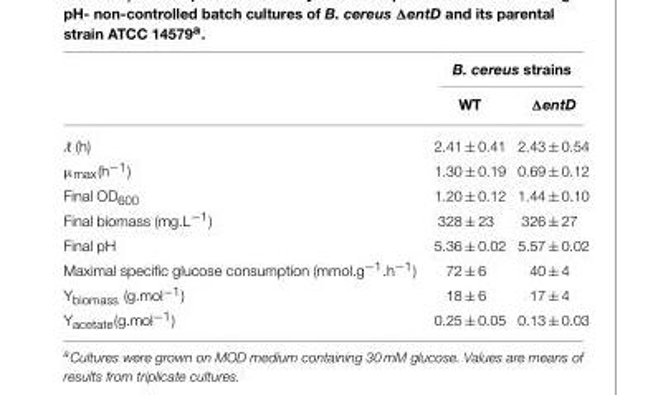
<table><thead><tr><td rowspan="2"></td><td colspan="2">B. cereus strains</td></tr><tr><td>WT</td><td>ΔentD</td></tr></thead><tbody><tr><td>ƛ (h)</td><td>2.41 ± 0.41</td><td>2.43 ± 0.54</td></tr><tr><td>µ<sub>max</sub>(h<sup>−1</sup>)</td><td>1.30 ± 0.19</td><td>0.69 ± 0.12</td></tr><tr><td>Final OD<sub>600</sub></td><td>1.20 ± 0.12</td><td>1.44 ± 0.10</td></tr><tr><td>Final biomass (mg.L<sup>−1</sup>)</td><td>328 ± 23</td><td>326 ± 27</td></tr><tr><td>Final pH</td><td>5.36 ± 0.02</td><td>5.57 ± 0.02</td></tr><tr><td>Maximal specific glucose consumption (mmol.g<sup>−1</sup>.h<sup>−1</sup>)</td><td>72 ± 6</td><td>40 ± 4</td></tr><tr><td>Y<sub>biomass</sub> (g.mol<sup>−1</sup>)</td><td>18 ± 6</td><td>17 ± 4</td></tr><tr><td>Y<sub>acetate</sub>(g.mol<sup>−1</sup>)</td><td>0.25 ± 0.05</td><td>0.13 ± 0.03</td></tr></tbody></table>